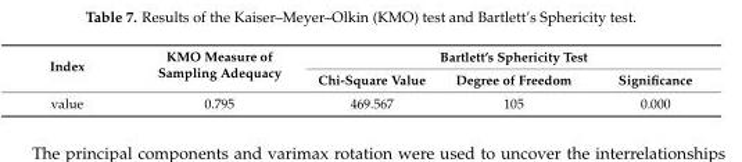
<table><thead><tr><td rowspan="2">Index</td><td rowspan="2">KMO Measure of Sampling Adequacy</td><td colspan="3">Bartlett’s Sphericity Test</td></tr><tr><td>Chi-Square Value</td><td>Degree of Freedom</td><td>Significance</td></tr></thead><tbody><tr><td>value</td><td>0.795</td><td>469.567</td><td>105</td><td>0.000</td></tr></tbody></table>